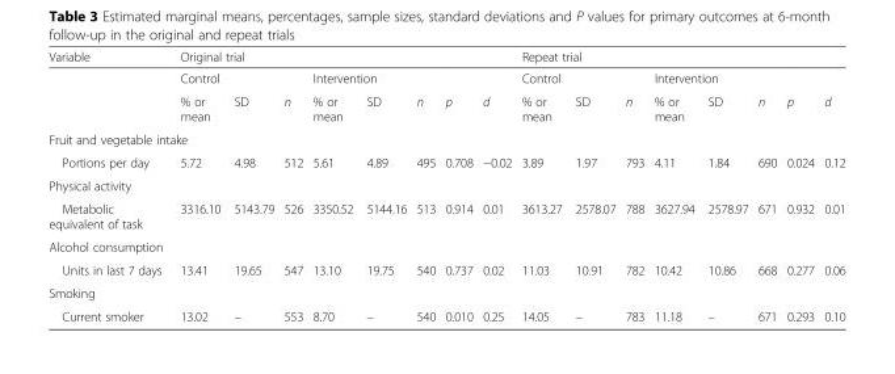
<table><thead><tr><td rowspan="3">Variable</td><td colspan="6">Original trial</td><td rowspan="3">p</td><td rowspan="3">d</td><td colspan="6">Repeat trial</td><td rowspan="3">p</td><td rowspan="3">d</td></tr><tr><td colspan="3">Control</td><td colspan="3">Intervention</td><td colspan="3">Control</td><td colspan="3">Intervention</td></tr><tr><td>% or mean</td><td>SD</td><td>n</td><td>% or mean</td><td>SD</td><td>n</td><td>% or mean</td><td>SD</td><td>n</td><td>% or mean</td><td>SD</td><td>n</td></tr></thead><tbody><tr><td colspan="17">Fruit and vegetable intake</td></tr><tr><td>Portions per day</td><td>5.72</td><td>4.98</td><td>512</td><td>5.61</td><td>4.89</td><td>495</td><td>0.708</td><td>−0.02</td><td>3.89</td><td>1.97</td><td>793</td><td>4.11</td><td>1.84</td><td>690</td><td>0.024</td><td>0.12</td></tr><tr><td colspan="17">Physical activity</td></tr><tr><td>Metabolic equivalent of task</td><td>3316.10</td><td>5143.79</td><td>526</td><td>3350.52</td><td>5144.16</td><td>513</td><td>0.914</td><td>0.01</td><td>3613.27</td><td>2578.07</td><td>788</td><td>3627.94</td><td>2578.97</td><td>671</td><td>0.932</td><td>0.01</td></tr><tr><td colspan="17">Alcohol consumption</td></tr><tr><td>Units in last 7 days</td><td>13.41</td><td>19.65</td><td>547</td><td>13.10</td><td>19.75</td><td>540</td><td>0.737</td><td>0.02</td><td>11.03</td><td>10.91</td><td>782</td><td>10.42</td><td>10.86</td><td>668</td><td>0.277</td><td>0.06</td></tr><tr><td colspan="17">Smoking</td></tr><tr><td>Current smoker</td><td>13.02</td><td>–</td><td>553</td><td>8.70</td><td>–</td><td>540</td><td>0.010</td><td>0.25</td><td>14.05</td><td>–</td><td>783</td><td>11.18</td><td>–</td><td>671</td><td>0.293</td><td>0.10</td></tr></tbody></table>